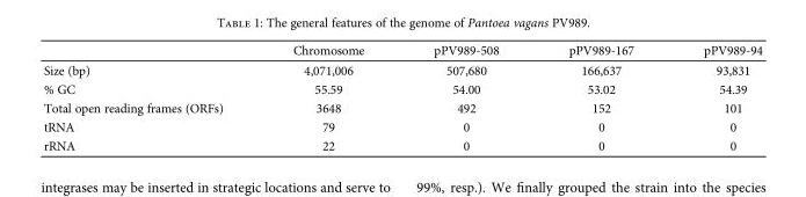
<table><thead><tr><td></td><td>Chromosome</td><td>pPV989-508</td><td>pPV989-167</td><td>pPV989-94</td></tr></thead><tbody><tr><td>Size (bp)</td><td>4,071,006</td><td>507,680</td><td>166,637</td><td>93,831</td></tr><tr><td>% GC</td><td>55.59</td><td>54.00</td><td>53.02</td><td>54.39</td></tr><tr><td>Total open reading frames (ORFs)</td><td>3648</td><td>492</td><td>152</td><td>101</td></tr><tr><td>tRNA</td><td>79</td><td>0</td><td>0</td><td>0</td></tr><tr><td>rRNA</td><td>22</td><td>0</td><td>0</td><td>0</td></tr></tbody></table>